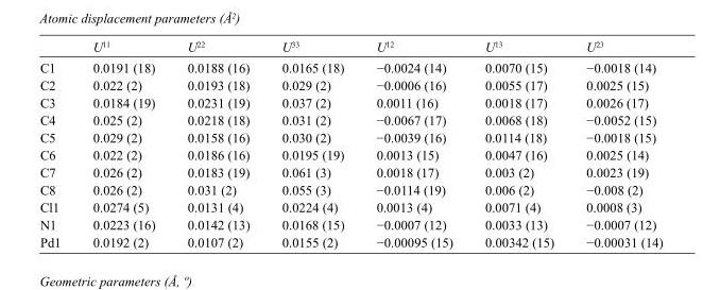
<table><thead><tr><td></td><td>U<sup>11</sup></td><td>U<sup>22</sup></td><td>U<sup>33</sup></td><td>U<sup>12</sup></td><td>U<sup>13</sup></td><td>U<sup>23</sup></td></tr></thead><tbody><tr><td>C1</td><td>0.0191 (18)</td><td>0.0188 (16)</td><td>0.0165 (18)</td><td>−0.0024 (14)</td><td>0.0070 (15)</td><td>−0.0018 (14)</td></tr><tr><td>C2</td><td>0.022 (2)</td><td>0.0193 (18)</td><td>0.029 (2)</td><td>−0.0006 (16)</td><td>0.0055 (17)</td><td>0.0025 (15)</td></tr><tr><td>C3</td><td>0.0184 (19)</td><td>0.0231 (19)</td><td>0.037 (2)</td><td>0.0011 (16)</td><td>0.0018 (17)</td><td>0.0026 (17)</td></tr><tr><td>C4</td><td>0.025 (2)</td><td>0.0218 (18)</td><td>0.031 (2)</td><td>−0.0067 (17)</td><td>0.0068 (18)</td><td>−0.0052 (15)</td></tr><tr><td>C5</td><td>0.029 (2)</td><td>0.0158 (16)</td><td>0.030 (2)</td><td>−0.0039 (16)</td><td>0.0114 (18)</td><td>−0.0018 (15)</td></tr><tr><td>C6</td><td>0.022 (2)</td><td>0.0186 (16)</td><td>0.0195 (19)</td><td>0.0013 (15)</td><td>0.0047 (16)</td><td>0.0025 (14)</td></tr><tr><td>C7</td><td>0.026 (2)</td><td>0.0183 (19)</td><td>0.061 (3)</td><td>0.0018 (17)</td><td>0.003 (2)</td><td>0.0023 (19)</td></tr><tr><td>C8</td><td>0.026 (2)</td><td>0.031 (2)</td><td>0.055 (3)</td><td>−0.0114 (19)</td><td>0.006 (2)</td><td>−0.008 (2)</td></tr><tr><td>Cl1</td><td>0.0274 (5)</td><td>0.0131 (4)</td><td>0.0224 (4)</td><td>0.0013 (4)</td><td>0.0071 (4)</td><td>0.0008 (3)</td></tr><tr><td>N1</td><td>0.0223 (16)</td><td>0.0142 (13)</td><td>0.0168 (15)</td><td>−0.0007 (12)</td><td>0.0033 (13)</td><td>−0.0007 (12)</td></tr><tr><td>Pd1</td><td>0.0192 (2)</td><td>0.0107 (2)</td><td>0.0155 (2)</td><td>−0.00095 (15)</td><td>0.00342 (15)</td><td>−0.00031 (14)</td></tr></tbody></table>